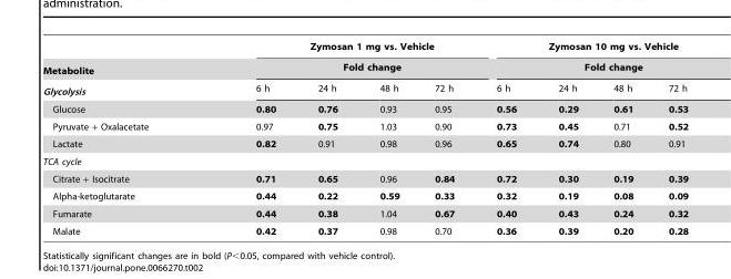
<table><thead><tr><td rowspan="3">Metabolite Glycolysis</td><td rowspan="2" colspan="4">Zymosan 1 mg vs. Vehicle Fold change</td><td rowspan="2" colspan="4">Zymosan 10 mg vs. Vehicle Fold change</td></tr><tr></tr><tr><td>6 h</td><td>24 h</td><td>48 h</td><td>72 h</td><td>6 h</td><td>24 h</td><td>48 h</td><td>72 h</td></tr></thead><tbody><tr><td>Glucose</td><td>0.80</td><td>0.76</td><td>0.93</td><td>0.95</td><td>0.56</td><td>0.29</td><td>0.61</td><td>0.53</td></tr><tr><td>Pyruvate + Oxalacetate</td><td>0.97</td><td>0.75</td><td>1.03</td><td>0.90</td><td>0.73</td><td>0.45</td><td>0.71</td><td>0.52</td></tr><tr><td>Lactate</td><td>0.82</td><td>0.91</td><td>0.98</td><td>0.96</td><td>0.65</td><td>0.74</td><td>0.80</td><td>0.91</td></tr><tr><td colspan="9">TCA cycle</td></tr><tr><td>Citrate + Isocitrate</td><td>0.71</td><td>0.65</td><td>0.96</td><td>0.84</td><td>0.72</td><td>0.30</td><td>0.19</td><td>0.39</td></tr><tr><td>Alpha-ketoglutarate</td><td>0.44</td><td>0.22</td><td>0.59</td><td>0.33</td><td>0.32</td><td>0.19</td><td>0.08</td><td>0.09</td></tr><tr><td>Fumarate</td><td>0.44</td><td>0.38</td><td>1.04</td><td>0.67</td><td>0.40</td><td>0.43</td><td>0.24</td><td>0.32</td></tr><tr><td>Malate</td><td>0.42</td><td>0.37</td><td>0.98</td><td>0.70</td><td>0.36</td><td>0.39</td><td>0.20</td><td>0.28</td></tr></tbody></table>